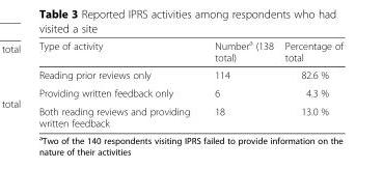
<table><thead><tr><td>Type of activity</td><td>Number<sup>a</sup> (138 total)</td><td>Percentage of total</td></tr></thead><tbody><tr><td>Reading prior reviews only</td><td>114</td><td>82.6 %</td></tr><tr><td>Providing written feedback only</td><td>6</td><td>4.3 %</td></tr><tr><td>Both reading reviews and providing written feedback</td><td>18</td><td>13.0 %</td></tr></tbody></table>